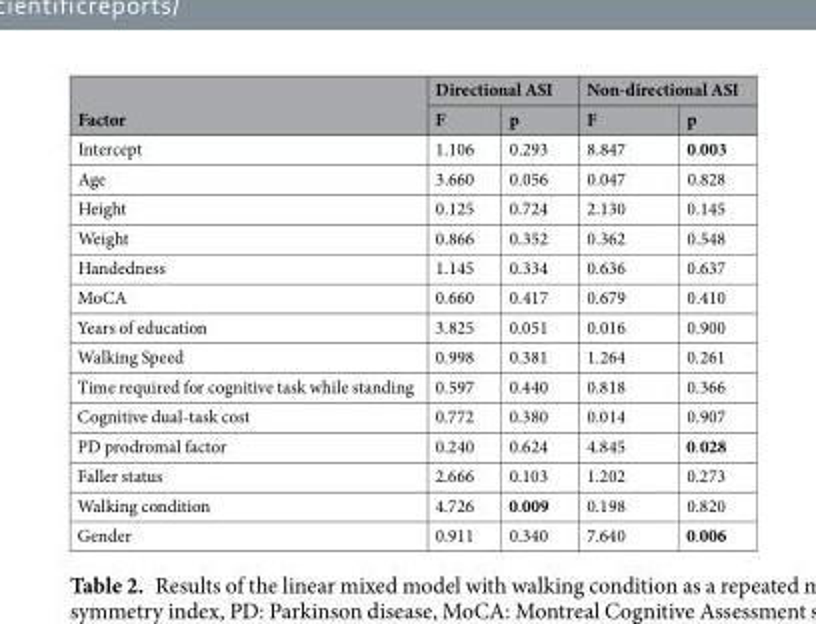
<table><thead><tr><td rowspan="2">Factor</td><td colspan="2">Directional ASI</td><td colspan="2">Non-directional ASI</td></tr><tr><td>F</td><td>p</td><td>F</td><td>p</td></tr></thead><tbody><tr><td>Intercept</td><td>1.106</td><td>0.293</td><td>8.847</td><td>0.003</td></tr><tr><td>Age</td><td>3.660</td><td>0.056</td><td>0.047</td><td>0.828</td></tr><tr><td>Height</td><td>0.125</td><td>0.724</td><td>2.130</td><td>0.145</td></tr><tr><td>Weight</td><td>0.866</td><td>0.352</td><td>0.362</td><td>0.548</td></tr><tr><td>Handedness</td><td>1.145</td><td>0.334</td><td>0.636</td><td>0.637</td></tr><tr><td>MoCA</td><td>0.660</td><td>0.417</td><td>0.679</td><td>0.410</td></tr><tr><td>Years of education</td><td>3.825</td><td>0.051</td><td>0.016</td><td>0.900</td></tr><tr><td>Walking Speed</td><td>0.998</td><td>0.381</td><td>1.264</td><td>0.261</td></tr><tr><td>Time required for cognitive task while standing</td><td>0.597</td><td>0.440</td><td>0.818</td><td>0.366</td></tr><tr><td>Cognitive dual-task cost</td><td>0.772</td><td>0.380</td><td>0.014</td><td>0.907</td></tr><tr><td>PD prodromal factor</td><td>0.240</td><td>0.624</td><td>4.845</td><td>0.028</td></tr><tr><td>Faller status</td><td>2.666</td><td>0.103</td><td>1.202</td><td>0.273</td></tr><tr><td>Walking condition</td><td>4.726</td><td>0.009</td><td>0.198</td><td>0.820</td></tr><tr><td>Gender</td><td>0.911</td><td>0.340</td><td>7.640</td><td>0.006</td></tr></tbody></table>